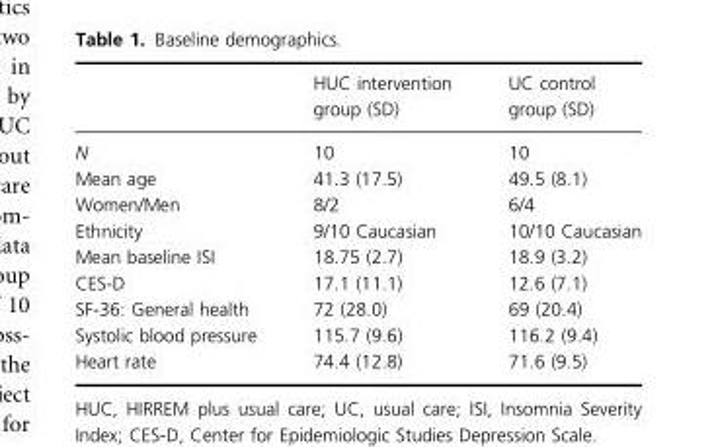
<table><thead><tr><td></td><td>HUC intervention group (SD)</td><td>UC control group (SD)</td></tr></thead><tbody><tr><td>N</td><td>10</td><td>10</td></tr><tr><td>Mean age</td><td>41.3 (17.5)</td><td>49.5 (8.1)</td></tr><tr><td>Women/Men</td><td>8/2</td><td>6/4</td></tr><tr><td>Ethnicity</td><td>9/10 Caucasian</td><td>10/10 Caucasian</td></tr><tr><td>Mean baseline ISI</td><td>18.75 (2.7)</td><td>18.9 (3.2)</td></tr><tr><td>CES-D</td><td>17.1 (11.1)</td><td>12.6 (7.1)</td></tr><tr><td>SF-36: General health</td><td>72 (28.0)</td><td>69 (20.4)</td></tr><tr><td>Systolic blood pressure</td><td>115.7 (9.6)</td><td>116.2 (9.4)</td></tr><tr><td>Heart rate</td><td>74.4 (12.8)</td><td>71.6 (9.5)</td></tr></tbody></table>